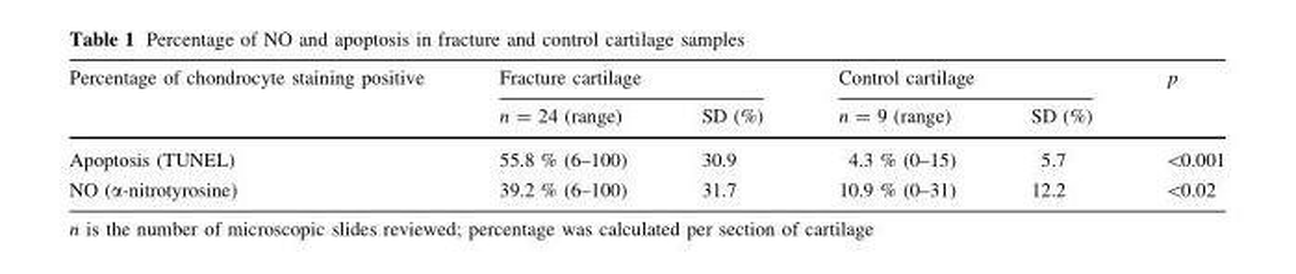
<table><thead><tr><td rowspan="2">Percentage of chondrocyte staining positive</td><td colspan="2">Fracture cartilage</td><td colspan="2">Control cartilage</td><td rowspan="2">p</td></tr><tr><td>n = 24 (range)</td><td>SD (%)</td><td>n = 9 (range)</td><td>SD (%)</td></tr></thead><tbody><tr><td>Apoptosis (TUNEL)</td><td>55.8 % (6–100)</td><td>30.9</td><td>4.3 % (0–15)</td><td>5.7</td><td>&lt;0.001</td></tr><tr><td>NO (α-nitrotyrosine)</td><td>39.2 % (6–100)</td><td>31.7</td><td>10.9 % (0–31)</td><td>12.2</td><td>&lt;0.02</td></tr></tbody></table>